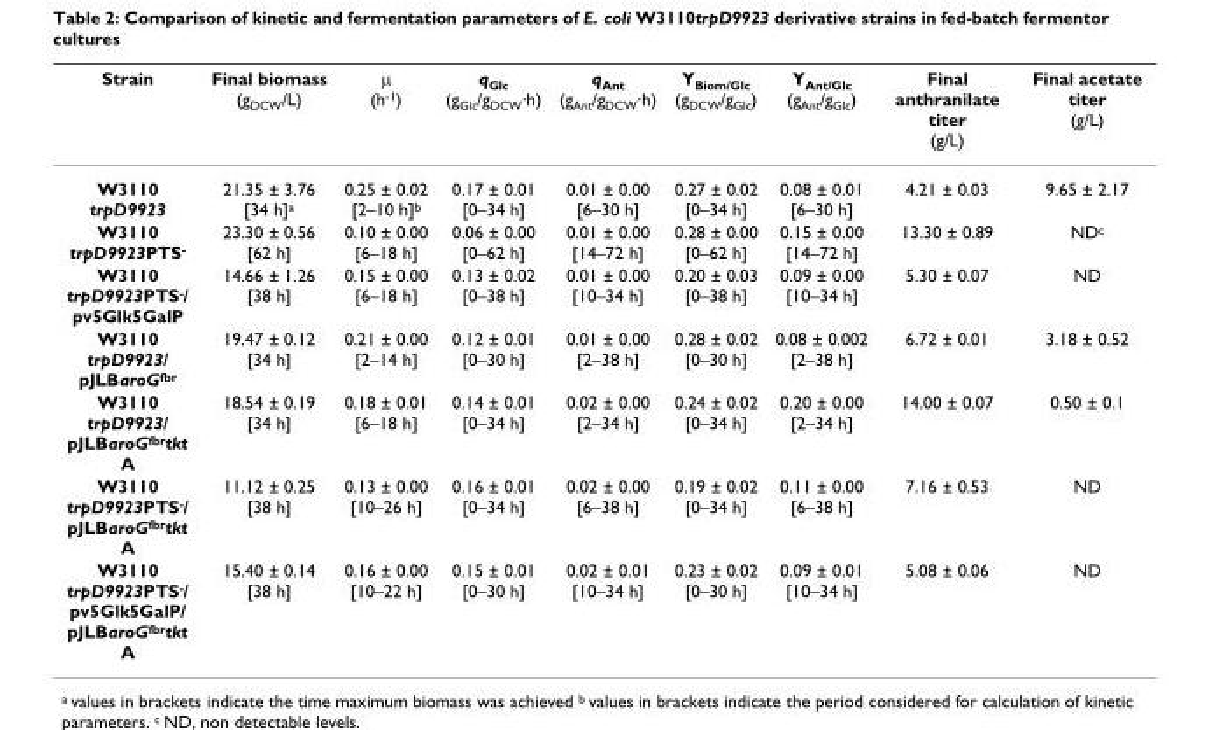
<table><thead><tr><td>Strain</td><td>Final biomass (g<sub>DCW</sub>/L)</td><td>μ (h<sup>-1</sup>)</td><td>q<sub>Glc</sub> (g<sub>Glc</sub>/g<sub>DCW</sub>·h)</td><td>q<sub>Ant</sub> (g<sub>Ant</sub>/g<sub>DCW</sub>·h)</td><td>Y<sub>Biom/Glc</sub> (g<sub>DCW</sub>/g<sub>Glc</sub>)</td><td>Y<sub>Ant/Glc</sub> (g<sub>Ant</sub>/g<sub>Glc</sub>)</td><td>Final anthranilate titer (g/L)</td><td>Final acetate titer (g/L)</td></tr></thead><tbody><tr><td>W3110 trpD9923</td><td>21.35 ± 3.76 [34 h]<sup>a</sup></td><td>0.25 ± 0.02 [2–10 h]<sup>b</sup></td><td>0.17 ± 0.01 [0–34 h]</td><td>0.01 ± 0.00 [6–30 h]</td><td>0.27 ± 0.02 [0–34 h]</td><td>0.08 ± 0.01 [6–30 h]</td><td>4.21 ± 0.03</td><td>9.65 ± 2.17</td></tr><tr><td>W3110 trpD9923PTS<sup>-</sup></td><td>23.30 ± 0.56 [62 h]</td><td>0.10 ± 0.00 [6–18 h]</td><td>0.06 ± 0.00 [0–62 h]</td><td>0.01 ± 0.00 [14–72 h]</td><td>0.28 ± 0.00 [0–62 h]</td><td>0.15 ± 0.00 [14–72 h]</td><td>13.30 ± 0.89</td><td>ND<sup>c</sup></td></tr><tr><td>W3110 trpD9923PTS<sup>-</sup>/ pv5Glk5GalP</td><td>14.66 ± 1.26 [38 h]</td><td>0.15 ± 0.00 [6–18 h]</td><td>0.13 ± 0.02 [0–38 h]</td><td>0.01 ± 0.00 [10–34 h]</td><td>0.20 ± 0.03 [0–38 h]</td><td>0.09 ± 0.00 [10–34 h]</td><td>5.30 ± 0.07</td><td>ND</td></tr><tr><td>W3110 trpD9923/ pJLBaroG<sup>fbr</sup></td><td>19.47 ± 0.12 [34 h]</td><td>0.21 ± 0.00 [2–14 h]</td><td>0.12 ± 0.01 [0–30 h]</td><td>0.01 ± 0.00 [2–38 h]</td><td>0.28 ± 0.02 [0–30 h]</td><td>0.08 ± 0.002 [2–38 h]</td><td>6.72 ± 0.01</td><td>3.18 ± 0.52</td></tr><tr><td>W3110 trpD9923/ pJLBaroG<sup>fbr</sup>tkt A</td><td>18.54 ± 0.19 [34 h]</td><td>0.18 ± 0.01 [6–18 h]</td><td>0.14 ± 0.01 [0–34 h]</td><td>0.02 ± 0.00 [2–34 h]</td><td>0.24 ± 0.02 [0–34 h]</td><td>0.20 ± 0.00 [2–34 h]</td><td>14.00 ± 0.07</td><td>0.50 ± 0.1</td></tr><tr><td>W3110 trpD9923PTS<sup>-</sup>/ pJLBaroG<sup>fbr</sup>tkt A</td><td>11.12 ± 0.25 [38 h]</td><td>0.13 ± 0.00 [10–26 h]</td><td>0.16 ± 0.01 [0–34 h]</td><td>0.02 ± 0.00 [6–38 h]</td><td>0.19 ± 0.02 [0–34 h]</td><td>0.11 ± 0.00 [6–38 h]</td><td>7.16 ± 0.53</td><td>ND</td></tr><tr><td>W3110 trpD9923PTS<sup>-</sup>/ pv5Glk5GalP/ pJLBaroG<sup>fbr</sup>tkt A</td><td>15.40 ± 0.14 [38 h]</td><td>0.16 ± 0.00 [10–22 h]</td><td>0.15 ± 0.01 [0–30 h]</td><td>0.02 ± 0.01 [10–34 h]</td><td>0.23 ± 0.02 [0–30 h]</td><td>0.09 ± 0.01 [10–34 h]</td><td>5.08 ± 0.06</td><td>ND</td></tr></tbody></table>